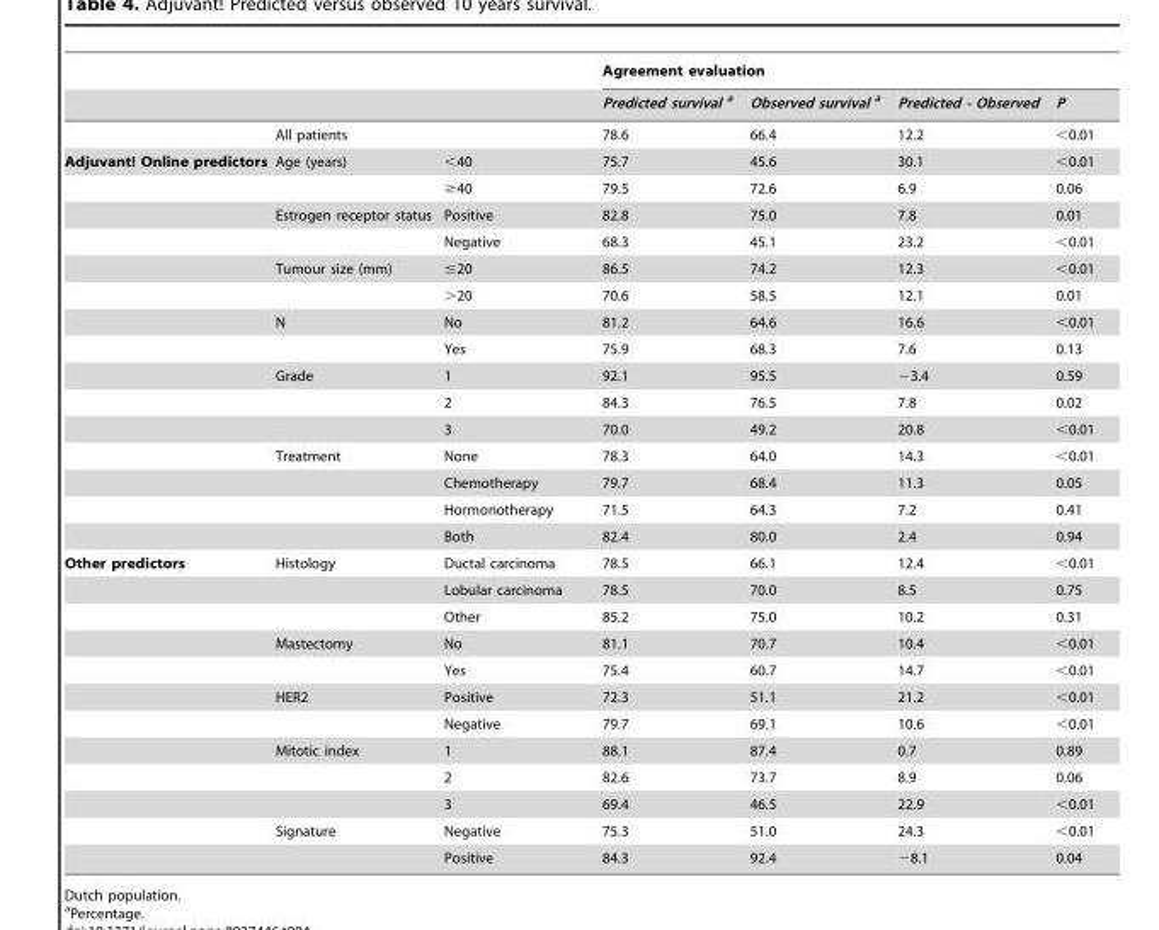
<table><thead><tr><td rowspan="2"></td><td rowspan="2"></td><td rowspan="2"></td><td colspan="4">Agreement evaluation</td></tr><tr><td>Predicted survival a</td><td>Observed survival a</td><td>Predicted - Observed</td><td>P</td></tr></thead><tbody><tr><td></td><td colspan="2">All patients</td><td>78.6</td><td>66.4</td><td>12.2</td><td>&lt;0.01</td></tr><tr><td rowspan="15">Adjuvant! Online predictors</td><td>Age (years)</td><td>&lt;40</td><td>75.7</td><td>45.6</td><td>30.1</td><td>&lt;0.01</td></tr><tr><td></td><td>≥40</td><td>79.5</td><td>72.6</td><td>6.9</td><td>0.06</td></tr><tr><td>Estrogen receptor status</td><td>Positive</td><td>82.8</td><td>75.0</td><td>7.8</td><td>0.01</td></tr><tr><td></td><td>Negative</td><td>68.3</td><td>45.1</td><td>23.2</td><td>&lt;0.01</td></tr><tr><td>Tumour size (mm)</td><td>≤20</td><td>86.5</td><td>74.2</td><td>12.3</td><td>&lt;0.01</td></tr><tr><td></td><td>&gt;20</td><td>70.6</td><td>58.5</td><td>12.1</td><td>0.01</td></tr><tr><td>N</td><td>No</td><td>81.2</td><td>64.6</td><td>16.6</td><td>&lt;0.01</td></tr><tr><td></td><td>Yes</td><td>75.9</td><td>68.3</td><td>7.6</td><td>0.13</td></tr><tr><td>Grade</td><td>1</td><td>92.1</td><td>95.5</td><td>−3.4</td><td>0.59</td></tr><tr><td></td><td>2</td><td>84.3</td><td>76.5</td><td>7.8</td><td>0.02</td></tr><tr><td></td><td>3</td><td>70.0</td><td>49.2</td><td>20.8</td><td>&lt;0.01</td></tr><tr><td>Treatment</td><td>None</td><td>78.3</td><td>64.0</td><td>14.3</td><td>&lt;0.01</td></tr><tr><td></td><td>Chemotherapy</td><td>79.7</td><td>68.4</td><td>11.3</td><td>0.05</td></tr><tr><td></td><td>Hormonotherapy</td><td>71.5</td><td>64.3</td><td>7.2</td><td>0.41</td></tr><tr><td></td><td>Both</td><td>82.4</td><td>80.0</td><td>2.4</td><td>0.94</td></tr><tr><td rowspan="12">Other predictors</td><td>Histology</td><td>Ductal carcinoma</td><td>78.5</td><td>66.1</td><td>12.4</td><td>&lt;0.01</td></tr><tr><td></td><td>Lobular carcinoma</td><td>78.5</td><td>70.0</td><td>8.5</td><td>0.75</td></tr><tr><td></td><td>Other</td><td>85.2</td><td>75.0</td><td>10.2</td><td>0.31</td></tr><tr><td>Mastectomy</td><td>No</td><td>81.1</td><td>70.7</td><td>10.4</td><td>&lt;0.01</td></tr><tr><td></td><td>Yes</td><td>75.4</td><td>60.7</td><td>14.7</td><td>&lt;0.01</td></tr><tr><td>HER2</td><td>Positive</td><td>72.3</td><td>51.1</td><td>21.2</td><td>&lt;0.01</td></tr><tr><td></td><td>Negative</td><td>79.7</td><td>69.1</td><td>10.6</td><td>&lt;0.01</td></tr><tr><td>Mitotic index</td><td>1</td><td>88.1</td><td>87.4</td><td>0.7</td><td>0.89</td></tr><tr><td></td><td>2</td><td>82.6</td><td>73.7</td><td>8.9</td><td>0.06</td></tr><tr><td></td><td>3</td><td>69.4</td><td>46.5</td><td>22.9</td><td>&lt;0.01</td></tr><tr><td>Signature</td><td>Negative</td><td>75.3</td><td>51.0</td><td>24.3</td><td>&lt;0.01</td></tr><tr><td></td><td>Positive</td><td>84.3</td><td>92.4</td><td>−8.1</td><td>0.04</td></tr></tbody></table>